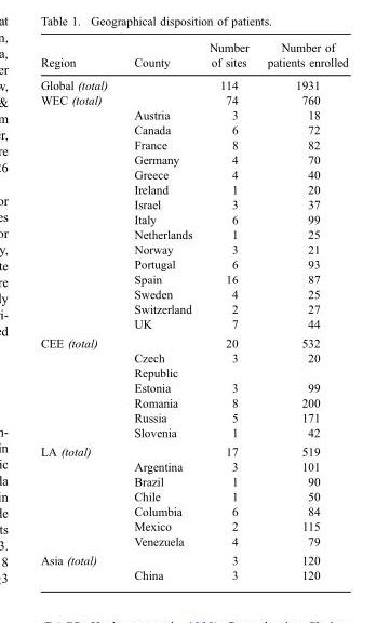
<table><thead><tr><td>Region</td><td>County</td><td>Number of sites</td><td>Number of patients enrolled</td></tr></thead><tbody><tr><td>Global (total)</td><td></td><td>114</td><td>1931</td></tr><tr><td rowspan="16">WEC (total)</td><td></td><td>74</td><td>760</td></tr><tr><td>Austria</td><td>3</td><td>18</td></tr><tr><td>Canada</td><td>6</td><td>72</td></tr><tr><td>France</td><td>8</td><td>82</td></tr><tr><td>Germany</td><td>4</td><td>70</td></tr><tr><td>Greece</td><td>4</td><td>40</td></tr><tr><td>Ireland</td><td>1</td><td>20</td></tr><tr><td>Israel</td><td>3</td><td>37</td></tr><tr><td>Italy</td><td>6</td><td>99</td></tr><tr><td>Netherlands</td><td>1</td><td>25</td></tr><tr><td>Norway</td><td>3</td><td>21</td></tr><tr><td>Portugal</td><td>6</td><td>93</td></tr><tr><td>Spain</td><td>16</td><td>87</td></tr><tr><td>Sweden</td><td>4</td><td>25</td></tr><tr><td>Switzerland</td><td>2</td><td>27</td></tr><tr><td>UK</td><td>7</td><td>44</td></tr><tr><td rowspan="6">CEE (total)</td><td></td><td>20</td><td>532</td></tr><tr><td>Czech Republic</td><td>3</td><td>20</td></tr><tr><td>Estonia</td><td>3</td><td>99</td></tr><tr><td>Romania</td><td>8</td><td>200</td></tr><tr><td>Russia</td><td>5</td><td>171</td></tr><tr><td>Slovenia</td><td>1</td><td>42</td></tr><tr><td rowspan="7">LA (total)</td><td></td><td>17</td><td>519</td></tr><tr><td>Argentina</td><td>3</td><td>101</td></tr><tr><td>Brazil</td><td>1</td><td>90</td></tr><tr><td>Chile</td><td>1</td><td>50</td></tr><tr><td>Columbia</td><td>6</td><td>84</td></tr><tr><td>Mexico</td><td>2</td><td>115</td></tr><tr><td>Venezuela</td><td>4</td><td>79</td></tr><tr><td rowspan="2">Asia (total)</td><td></td><td>3</td><td>120</td></tr><tr><td>China</td><td>3</td><td>120</td></tr></tbody></table>